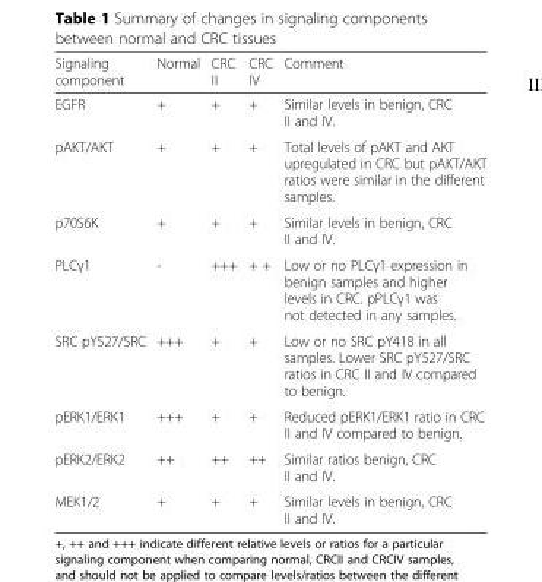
<table><thead><tr><td>Signaling component</td><td>Normal</td><td>CRC II</td><td>CRC IV</td><td>Comment</td></tr></thead><tbody><tr><td>EGFR</td><td>+</td><td>+</td><td>+</td><td>Similar levels in benign, CRC II and IV.</td></tr><tr><td>pAKT/AKT</td><td>+</td><td>+</td><td>+</td><td>Total levels of pAKT and AKT upregulated in CRC but pAKT/AKT ratios were similar in the different samples.</td></tr><tr><td>p70S6K</td><td>+</td><td>+</td><td>+</td><td>Similar levels in benign, CRC II and IV.</td></tr><tr><td>PLCγ1</td><td>-</td><td>+++</td><td>+ +</td><td>Low or no PLCγ1 expression in benign samples and higher levels in CRC. pPLCγ1 was not detected in any samples.</td></tr><tr><td>SRC pY527/SRC</td><td>+++</td><td>+</td><td>+</td><td>Low or no SRC pY418 in all samples. Lower SRC pY527/SRC ratios in CRC II and IV compared to benign.</td></tr><tr><td>pERK1/ERK1</td><td>+++</td><td>+</td><td>+</td><td>Reduced pERK1/ERK1 ratio in CRC II and IV compared to benign.</td></tr><tr><td>pERK2/ERK2</td><td>++</td><td>++</td><td>++</td><td>Similar ratios benign, CRC II and IV.</td></tr><tr><td>MEK1/2</td><td>+</td><td>+</td><td>+</td><td>Similar levels in benign, CRC II and IV.</td></tr></tbody></table>